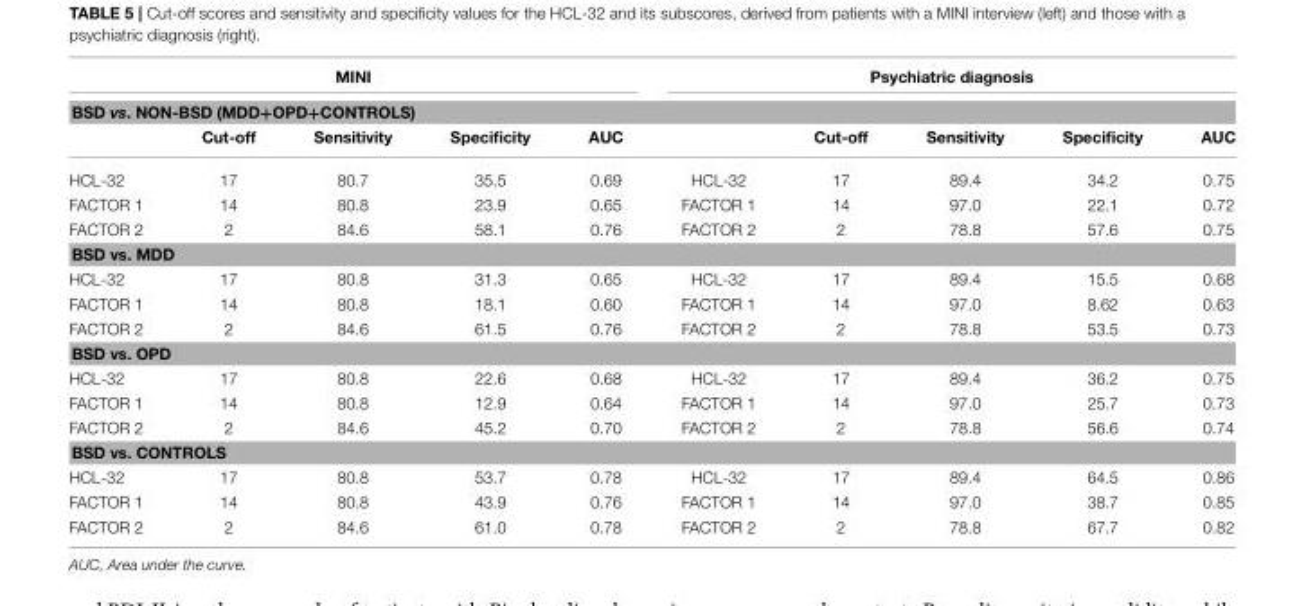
<table><thead><tr><td colspan="5">MINI</td><td colspan="5">Psychiatric diagnosis</td></tr><tr><td colspan="10">BSD vs. NON-BSD (MDD+OPD+CONTROLS)</td></tr><tr><td></td><td>Cut-off</td><td>Sensitivity</td><td>Specificity</td><td>AUC</td><td></td><td>Cut-off</td><td>Sensitivity</td><td>Specificity</td><td>AUC</td></tr></thead><tbody><tr><td>HCL-32</td><td>17</td><td>80.7</td><td>35.5</td><td>0.69</td><td>HCL-32</td><td>17</td><td>89.4</td><td>34.2</td><td>0.75</td></tr><tr><td>FACTOR 1</td><td>14</td><td>80.8</td><td>23.9</td><td>0.65</td><td>FACTOR 1</td><td>14</td><td>97.0</td><td>22.1</td><td>0.72</td></tr><tr><td>FACTOR 2</td><td>2</td><td>84.6</td><td>58.1</td><td>0.76</td><td>FACTOR 2</td><td>2</td><td>78.8</td><td>57.6</td><td>0.75</td></tr><tr><td colspan="10">BSD vs. MDD</td></tr><tr><td>HCL-32</td><td>17</td><td>80.8</td><td>31.3</td><td>0.65</td><td>HCL-32</td><td>17</td><td>89.4</td><td>15.5</td><td>0.68</td></tr><tr><td>FACTOR 1</td><td>14</td><td>80.8</td><td>18.1</td><td>0.60</td><td>FACTOR 1</td><td>14</td><td>97.0</td><td>8.62</td><td>0.63</td></tr><tr><td>FACTOR 2</td><td>2</td><td>84.6</td><td>61.5</td><td>0.76</td><td>FACTOR 2</td><td>2</td><td>78.8</td><td>53.5</td><td>0.73</td></tr><tr><td colspan="10">BSD vs. OPD</td></tr><tr><td>HCL-32</td><td>17</td><td>80.8</td><td>22.6</td><td>0.68</td><td>HCL-32</td><td>17</td><td>89.4</td><td>36.2</td><td>0.75</td></tr><tr><td>FACTOR 1</td><td>14</td><td>80.8</td><td>12.9</td><td>0.64</td><td>FACTOR 1</td><td>14</td><td>97.0</td><td>25.7</td><td>0.73</td></tr><tr><td>FACTOR 2</td><td>2</td><td>84.6</td><td>45.2</td><td>0.70</td><td>FACTOR 2</td><td>2</td><td>78.8</td><td>56.6</td><td>0.74</td></tr><tr><td colspan="10">BSD vs. CONTROLS</td></tr><tr><td>HCL-32</td><td>17</td><td>80.8</td><td>53.7</td><td>0.78</td><td>HCL-32</td><td>17</td><td>89.4</td><td>64.5</td><td>0.86</td></tr><tr><td>FACTOR 1</td><td>14</td><td>80.8</td><td>43.9</td><td>0.76</td><td>FACTOR 1</td><td>14</td><td>97.0</td><td>38.7</td><td>0.85</td></tr><tr><td>FACTOR 2</td><td>2</td><td>84.6</td><td>61.0</td><td>0.78</td><td>FACTOR 2</td><td>2</td><td>78.8</td><td>67.7</td><td>0.82</td></tr></tbody></table>